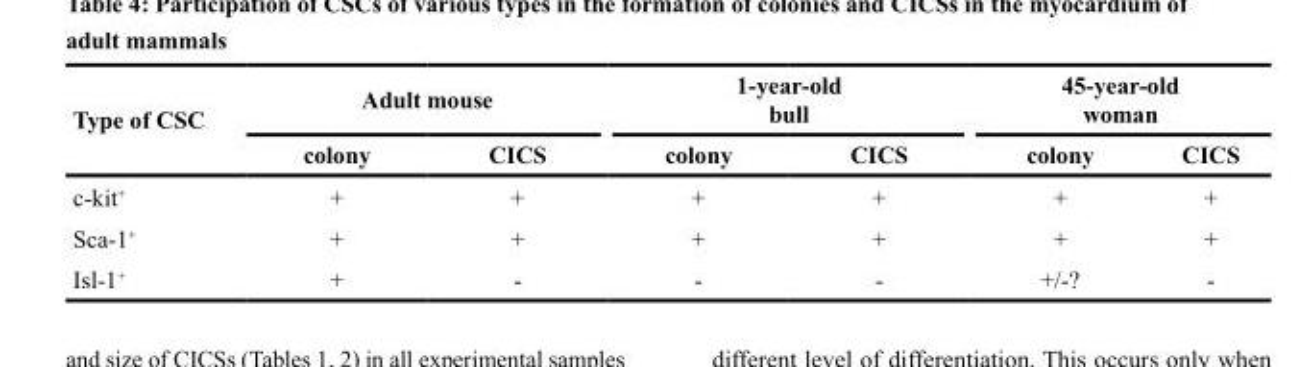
<table><thead><tr><td rowspan="2">Type of CSC</td><td colspan="2">Adult mouse</td><td colspan="2">1-year-old bull</td><td colspan="2">45-year-old woman</td></tr><tr><td>colony</td><td>CICS</td><td>colony</td><td>CICS</td><td>colony</td><td>CICS</td></tr></thead><tbody><tr><td>c-kit<sup>+</sup></td><td>+</td><td>+</td><td>+</td><td>+</td><td>+</td><td>+</td></tr><tr><td>Sca-1<sup>+</sup></td><td>+</td><td>+</td><td>+</td><td>+</td><td>+</td><td>+</td></tr><tr><td>Isl-1<sup>+</sup></td><td>+</td><td>-</td><td>-</td><td>-</td><td>+/-?</td><td>-</td></tr></tbody></table>